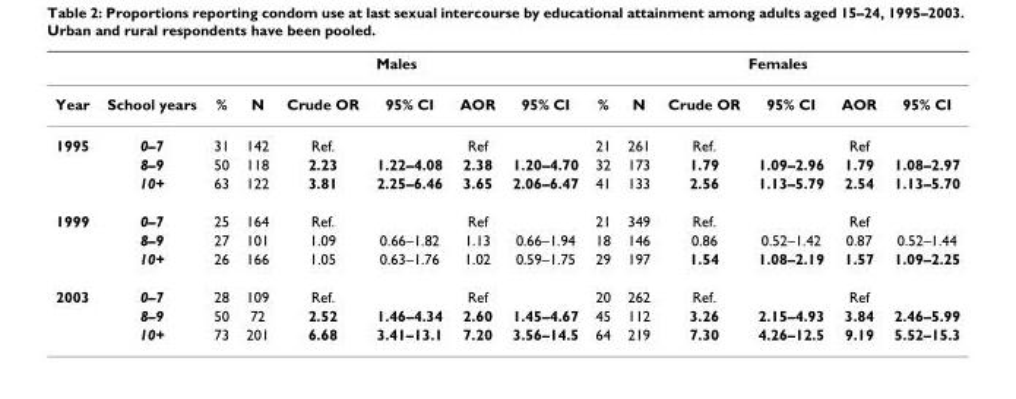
<table><thead><tr><td rowspan="2">Year</td><td rowspan="2">School years</td><td colspan="6">Males</td><td colspan="6">Females</td></tr><tr><td>%</td><td>N</td><td>Crude OR</td><td>95% CI</td><td>AOR</td><td>95% CI</td><td>%</td><td>N</td><td>Crude OR</td><td>95% CI</td><td>AOR</td><td>95% CI</td></tr></thead><tbody><tr><td rowspan="3">1995</td><td>0–7</td><td>31</td><td>142</td><td>Ref.</td><td></td><td>Ref</td><td></td><td>21</td><td>261</td><td>Ref.</td><td></td><td>Ref</td><td></td></tr><tr><td>8–9</td><td>50</td><td>118</td><td>2.23</td><td>1.22–4.08</td><td>2.38</td><td>1.20–4.70</td><td>32</td><td>173</td><td>1.79</td><td>1.09–2.96</td><td>1.79</td><td>1.08–2.97</td></tr><tr><td>10+</td><td>63</td><td>122</td><td>3.81</td><td>2.25–6.46</td><td>3.65</td><td>2.06–6.47</td><td>41</td><td>133</td><td>2.56</td><td>1.13–5.79</td><td>2.54</td><td>1.13–5.70</td></tr><tr><td rowspan="3">1999</td><td>0–7</td><td>25</td><td>164</td><td>Ref.</td><td></td><td>Ref</td><td></td><td>21</td><td>349</td><td>Ref.</td><td></td><td>Ref</td><td></td></tr><tr><td>8–9</td><td>27</td><td>101</td><td>1.09</td><td>0.66–1.82</td><td>1.13</td><td>0.66–1.94</td><td>18</td><td>146</td><td>0.86</td><td>0.52–1.42</td><td>0.87</td><td>0.52–1.44</td></tr><tr><td>10+</td><td>26</td><td>166</td><td>1.05</td><td>0.63–1.76</td><td>1.02</td><td>0.59–1.75</td><td>29</td><td>197</td><td>1.54</td><td>1.08–2.19</td><td>1.57</td><td>1.09–2.25</td></tr><tr><td rowspan="3">2003</td><td>0–7</td><td>28</td><td>109</td><td>Ref.</td><td></td><td>Ref</td><td></td><td>20</td><td>262</td><td>Ref.</td><td></td><td>Ref</td><td></td></tr><tr><td>8–9</td><td>50</td><td>72</td><td>2.52</td><td>1.46–4.34</td><td>2.60</td><td>1.45–4.67</td><td>45</td><td>112</td><td>3.26</td><td>2.15–4.93</td><td>3.84</td><td>2.46–5.99</td></tr><tr><td>10+</td><td>73</td><td>201</td><td>6.68</td><td>3.41–13.1</td><td>7.20</td><td>3.56–14.5</td><td>64</td><td>219</td><td>7.30</td><td>4.26–12.5</td><td>9.19</td><td>5.52–15.3</td></tr></tbody></table>